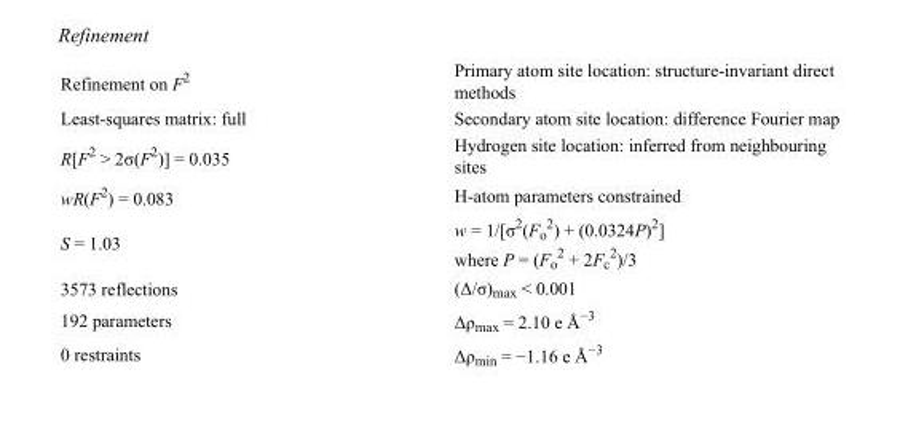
<table><tbody><tr><td>Refinement on F<sup>2</sup></td><td>Primary atom site location: structure-invariant direct methods</td></tr><tr><td>Least-squares matrix: full</td><td>Secondary atom site location: difference Fourier map</td></tr><tr><td>R[F<sup>2</sup> &gt; 2σ(F<sup>2</sup>)] = 0.035</td><td>Hydrogen site location: inferred from neighbouring sites</td></tr><tr><td>wR(F<sup>2</sup>) = 0.083</td><td>H-atom parameters constrained</td></tr><tr><td>S = 1.03</td><td>w = 1/[σ<sup>2</sup>(F<sub>o</sub> <sup>2</sup>) + (0.0324P)<sup>2</sup>] where P = (F<sub>o</sub> <sup>2</sup> + 2F<sub>c</sub> <sup>2</sup>)/3</td></tr><tr><td>3573 reflections</td><td>(Δ/σ)<sub>max</sub> &lt; 0.001</td></tr><tr><td>192 parameters</td><td>Δρ<sub>max</sub> = 2.10 e Å<sup>−3</sup></td></tr><tr><td>0 restraints</td><td>Δρ<sub>min</sub> = −1.16 e Å<sup>−3</sup></td></tr></tbody></table>